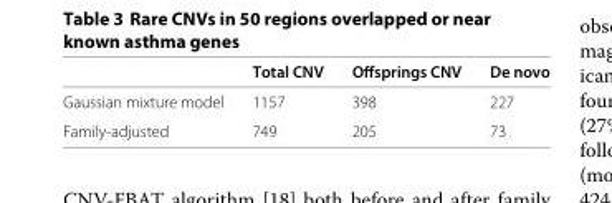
<table><thead><tr><td></td><td>Total CNV</td><td>Offsprings CNV</td><td>De novo</td></tr></thead><tbody><tr><td>Gaussian mixture model</td><td>1157</td><td>398</td><td>227</td></tr><tr><td>Family-adjusted</td><td>749</td><td>205</td><td>73</td></tr></tbody></table>